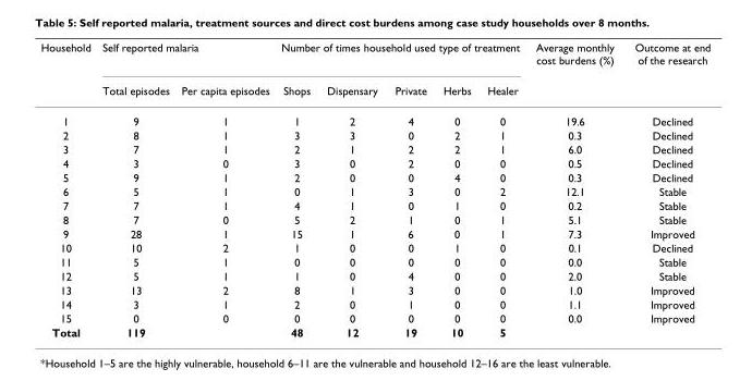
<table><thead><tr><td rowspan="2">Household</td><td colspan="2">Self reported malaria</td><td colspan="5">Number of times household used type of treatment</td><td rowspan="2">Average monthly cost burdens (%)</td><td rowspan="2">Outcome at end of the research</td></tr><tr><td>Total episodes</td><td>Per capita episodes</td><td>Shops</td><td>Dispensary</td><td>Private</td><td>Herbs</td><td>Healer</td></tr></thead><tbody><tr><td>1</td><td>9</td><td>1</td><td>1</td><td>2</td><td>4</td><td>0</td><td>0</td><td>19.6</td><td>Declined</td></tr><tr><td>2</td><td>8</td><td>1</td><td>3</td><td>3</td><td>0</td><td>2</td><td>1</td><td>0.3</td><td>Declined</td></tr><tr><td>3</td><td>7</td><td>1</td><td>2</td><td>1</td><td>2</td><td>2</td><td>1</td><td>6.0</td><td>Declined</td></tr><tr><td>4</td><td>3</td><td>0</td><td>3</td><td>0</td><td>2</td><td>0</td><td>0</td><td>0.5</td><td>Declined</td></tr><tr><td>5</td><td>9</td><td>1</td><td>2</td><td>0</td><td>0</td><td>4</td><td>0</td><td>0.3</td><td>Declined</td></tr><tr><td>6</td><td>5</td><td>1</td><td>0</td><td>1</td><td>3</td><td>0</td><td>2</td><td>12.1</td><td>Stable</td></tr><tr><td>7</td><td>7</td><td>1</td><td>4</td><td>1</td><td>0</td><td>1</td><td>0</td><td>0.2</td><td>Stable</td></tr><tr><td>8</td><td>7</td><td>0</td><td>5</td><td>2</td><td>1</td><td>0</td><td>1</td><td>5.1</td><td>Stable</td></tr><tr><td>9</td><td>28</td><td>1</td><td>15</td><td>1</td><td>6</td><td>0</td><td>1</td><td>7.3</td><td>Improved</td></tr><tr><td>10</td><td>10</td><td>2</td><td>1</td><td>0</td><td>0</td><td>1</td><td>0</td><td>0.1</td><td>Declined</td></tr><tr><td>11</td><td>5</td><td>1</td><td>0</td><td>0</td><td>0</td><td>0</td><td>0</td><td>0.0</td><td>Stable</td></tr><tr><td>12</td><td>5</td><td>1</td><td>1</td><td>0</td><td>4</td><td>0</td><td>0</td><td>2.0</td><td>Stable</td></tr><tr><td>13</td><td>13</td><td>2</td><td>8</td><td>1</td><td>3</td><td>0</td><td>0</td><td>1.0</td><td>Improved</td></tr><tr><td>14</td><td>3</td><td>1</td><td>2</td><td>0</td><td>1</td><td>0</td><td>0</td><td>1.1</td><td>Improved</td></tr><tr><td>15</td><td>0</td><td>0</td><td>0</td><td>0</td><td>0</td><td>0</td><td>0</td><td>0.0</td><td>Improved</td></tr><tr><td>Total</td><td>119</td><td></td><td>48</td><td>12</td><td>19</td><td>10</td><td>5</td><td></td><td></td></tr></tbody></table>